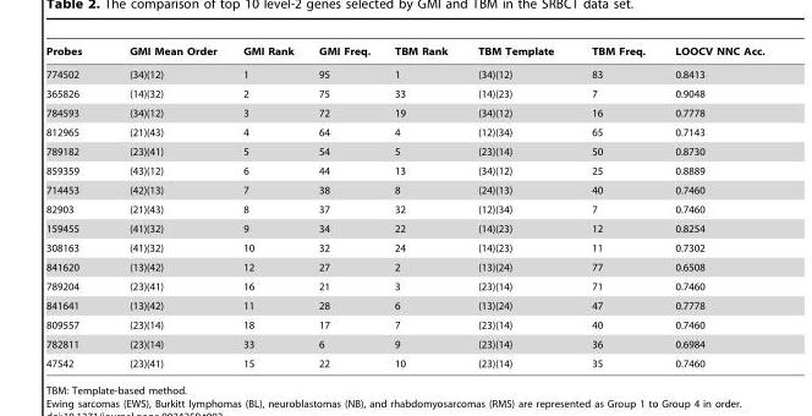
<table><thead><tr><td>Probes</td><td>GMI Mean Order</td><td>GMI Rank</td><td>GMI Freq.</td><td>TBM Rank</td><td>TBM Template</td><td>TBM Freq.</td><td>LOOCV NNC Acc.</td></tr></thead><tbody><tr><td>774502</td><td>(34)(12)</td><td>1</td><td>95</td><td>1</td><td>(34)(12)</td><td>83</td><td>0.8413</td></tr><tr><td>365826</td><td>(14)(32)</td><td>2</td><td>75</td><td>33</td><td>(14)(23)</td><td>7</td><td>0.9048</td></tr><tr><td>784593</td><td>(34)(12)</td><td>3</td><td>72</td><td>19</td><td>(34)(12)</td><td>16</td><td>0.7778</td></tr><tr><td>812965</td><td>(21)(43)</td><td>4</td><td>64</td><td>4</td><td>(12)(34)</td><td>65</td><td>0.7143</td></tr><tr><td>789182</td><td>(23)(41)</td><td>5</td><td>54</td><td>5</td><td>(23)(14)</td><td>50</td><td>0.8730</td></tr><tr><td>859359</td><td>(43)(12)</td><td>6</td><td>44</td><td>13</td><td>(34)(12)</td><td>25</td><td>0.8889</td></tr><tr><td>714453</td><td>(42)(13)</td><td>7</td><td>38</td><td>8</td><td>(24)(13)</td><td>40</td><td>0.7460</td></tr><tr><td>82903</td><td>(21)(43)</td><td>8</td><td>37</td><td>32</td><td>(12)(34)</td><td>7</td><td>0.7460</td></tr><tr><td>159455</td><td>(41)(32)</td><td>9</td><td>34</td><td>22</td><td>(14)(23)</td><td>12</td><td>0.8254</td></tr><tr><td>308163</td><td>(41)(32)</td><td>10</td><td>32</td><td>24</td><td>(14)(23)</td><td>11</td><td>0.7302</td></tr><tr><td>841620</td><td>(13)(42)</td><td>12</td><td>27</td><td>2</td><td>(13)(24)</td><td>77</td><td>0.6508</td></tr><tr><td>789204</td><td>(23)(41)</td><td>16</td><td>21</td><td>3</td><td>(23)(14)</td><td>71</td><td>0.7460</td></tr><tr><td>841641</td><td>(13)(42)</td><td>11</td><td>28</td><td>6</td><td>(13)(24)</td><td>47</td><td>0.7778</td></tr><tr><td>809557</td><td>(23)(14)</td><td>18</td><td>17</td><td>7</td><td>(23)(14)</td><td>40</td><td>0.7460</td></tr><tr><td>782811</td><td>(23)(14)</td><td>33</td><td>6</td><td>9</td><td>(23)(14)</td><td>36</td><td>0.6984</td></tr><tr><td>47542</td><td>(23)(41)</td><td>15</td><td>22</td><td>10</td><td>(23)(14)</td><td>35</td><td>0.7460</td></tr></tbody></table>